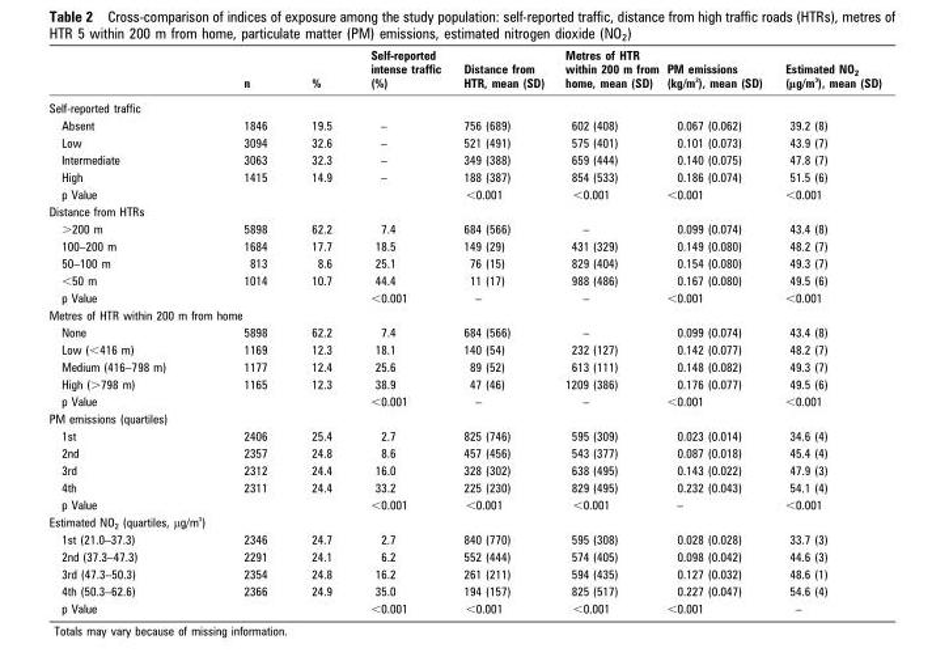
<table><thead><tr><td></td><td>n</td><td>%</td><td>Self-reported intense traffic (%)</td><td>Distance from HTR, mean (SD)</td><td>Metres of HTR within 200 m from home, mean (SD)</td><td>PM emissions (kg/m <sup>2</sup>), mean (SD)</td><td>Estimated NO<sub>2</sub> (μg/m <sup>3</sup>), mean (SD)</td></tr></thead><tbody><tr><td colspan="8">Self-reported traffic</td></tr><tr><td>Absent</td><td>1846</td><td>19.5</td><td>–</td><td>756 (689)</td><td>602 (408)</td><td>0.067 (0.062)</td><td>39.2 (8)</td></tr><tr><td>Low</td><td>3094</td><td>32.6</td><td>–</td><td>521 (491)</td><td>575 (401)</td><td>0.101 (0.073)</td><td>43.9 (7)</td></tr><tr><td>Intermediate</td><td>3063</td><td>32.3</td><td>–</td><td>349 (388)</td><td>659 (444)</td><td>0.140 (0.075)</td><td>47.8 (7)</td></tr><tr><td>High</td><td>1415</td><td>14.9</td><td>–</td><td>188 (387)</td><td>854 (533)</td><td>0.186 (0.074)</td><td>51.5 (6)</td></tr><tr><td>p Value</td><td></td><td></td><td></td><td>&lt;0.001</td><td>&lt;0.001</td><td>&lt;0.001</td><td>&lt;0.001</td></tr><tr><td colspan="8">Distance from HTRs</td></tr><tr><td>&gt;200 m</td><td>5898</td><td>62.2</td><td>7.4</td><td>684 (566)</td><td>–</td><td>0.099 (0.074)</td><td>43.4 (8)</td></tr><tr><td>100–200 m</td><td>1684</td><td>17.7</td><td>18.5</td><td>149 (29)</td><td>431 (329)</td><td>0.149 (0.080)</td><td>48.2 (7)</td></tr><tr><td>50–100 m</td><td>813</td><td>8.6</td><td>25.1</td><td>76 (15)</td><td>829 (404)</td><td>0.154 (0.080)</td><td>49.3 (7)</td></tr><tr><td>&lt;50 m</td><td>1014</td><td>10.7</td><td>44.4</td><td>11 (17)</td><td>988 (486)</td><td>0.167 (0.080)</td><td>49.5 (6)</td></tr><tr><td>p Value</td><td></td><td></td><td>&lt;0.001</td><td>–</td><td>–</td><td>&lt;0.001</td><td>&lt;0.001</td></tr><tr><td colspan="8">Metres of HTR within 200 m from home</td></tr><tr><td>None</td><td>5898</td><td>62.2</td><td>7.4</td><td>684 (566)</td><td>–</td><td>0.099 (0.074)</td><td>43.4 (8)</td></tr><tr><td>Low (&lt;416 m)</td><td>1169</td><td>12.3</td><td>18.1</td><td>140 (54)</td><td>232 (127)</td><td>0.142 (0.077)</td><td>48.2 (7)</td></tr><tr><td>Medium (416–798 m)</td><td>1177</td><td>12.4</td><td>25.6</td><td>89 (52)</td><td>613 (111)</td><td>0.148 (0.082)</td><td>49.3 (7)</td></tr><tr><td>High (&gt;798 m)</td><td>1165</td><td>12.3</td><td>38.9</td><td>47 (46)</td><td>1209 (386)</td><td>0.176 (0.077)</td><td>49.5 (6)</td></tr><tr><td>p Value</td><td></td><td></td><td>&lt;0.001</td><td>–</td><td>–</td><td>&lt;0.001</td><td>&lt;0.001</td></tr><tr><td colspan="8">PM emissions (quartiles)</td></tr><tr><td>1st</td><td>2406</td><td>25.4</td><td>2.7</td><td>825 (746)</td><td>595 (309)</td><td>0.023 (0.014)</td><td>34.6 (4)</td></tr><tr><td>2nd</td><td>2357</td><td>24.8</td><td>8.6</td><td>457 (456)</td><td>543 (377)</td><td>0.087 (0.018)</td><td>45.4 (4)</td></tr><tr><td>3rd</td><td>2312</td><td>24.4</td><td>16.0</td><td>328 (302)</td><td>638 (495)</td><td>0.143 (0.022)</td><td>47.9 (3)</td></tr><tr><td>4th</td><td>2311</td><td>24.4</td><td>33.2</td><td>225 (230)</td><td>829 (495)</td><td>0.232 (0.043)</td><td>54.1 (4)</td></tr><tr><td>p Value</td><td></td><td></td><td>&lt;0.001</td><td>&lt;0.001</td><td>&lt;0.001</td><td>–</td><td>&lt;0.001</td></tr><tr><td colspan="8">Estimated NO<sub>2</sub> (quartiles, μg/m <sup>3</sup>)</td></tr><tr><td>1st (21.0–37.3)</td><td>2346</td><td>24.7</td><td>2.7</td><td>840 (770)</td><td>595 (308)</td><td>0.028 (0.028)</td><td>33.7 (3)</td></tr><tr><td>2nd (37.3–47.3)</td><td>2291</td><td>24.1</td><td>6.2</td><td>552 (444)</td><td>574 (405)</td><td>0.098 (0.042)</td><td>44.6 (3)</td></tr><tr><td>3rd (47.3–50.3)</td><td>2354</td><td>24.8</td><td>16.2</td><td>261 (211)</td><td>594 (435)</td><td>0.127 (0.032)</td><td>48.6 (1)</td></tr><tr><td>4th (50.3–62.6)</td><td>2366</td><td>24.9</td><td>35.0</td><td>194 (157)</td><td>825 (517)</td><td>0.227 (0.047)</td><td>54.6 (4)</td></tr><tr><td>p Value</td><td></td><td></td><td>&lt;0.001</td><td>&lt;0.001</td><td>&lt;0.001</td><td>&lt;0.001</td><td>–</td></tr></tbody></table>